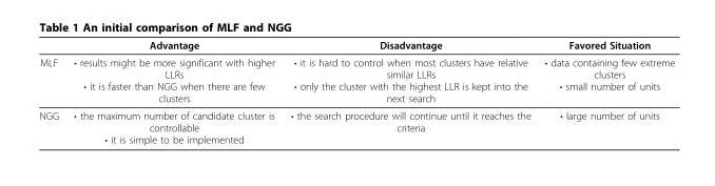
<table><thead><tr><td></td><td>Advantage</td><td>Disadvantage</td><td>Favored Situation</td></tr></thead><tbody><tr><td>MLF</td><td>• results might be more significant with higher LLRs • it is faster than NGG when there are few clusters</td><td>• it is hard to control when most clusters have relative similar LLRs • only the cluster with the highest LLR is kept into the next search</td><td>• data containing few extreme clusters • small number of units</td></tr><tr><td>NGG</td><td>• the maximum number of candidate cluster is controllable • it is simple to be implemented</td><td>• the search procedure will continue until it reaches the criteria</td><td>• large number of units</td></tr></tbody></table>